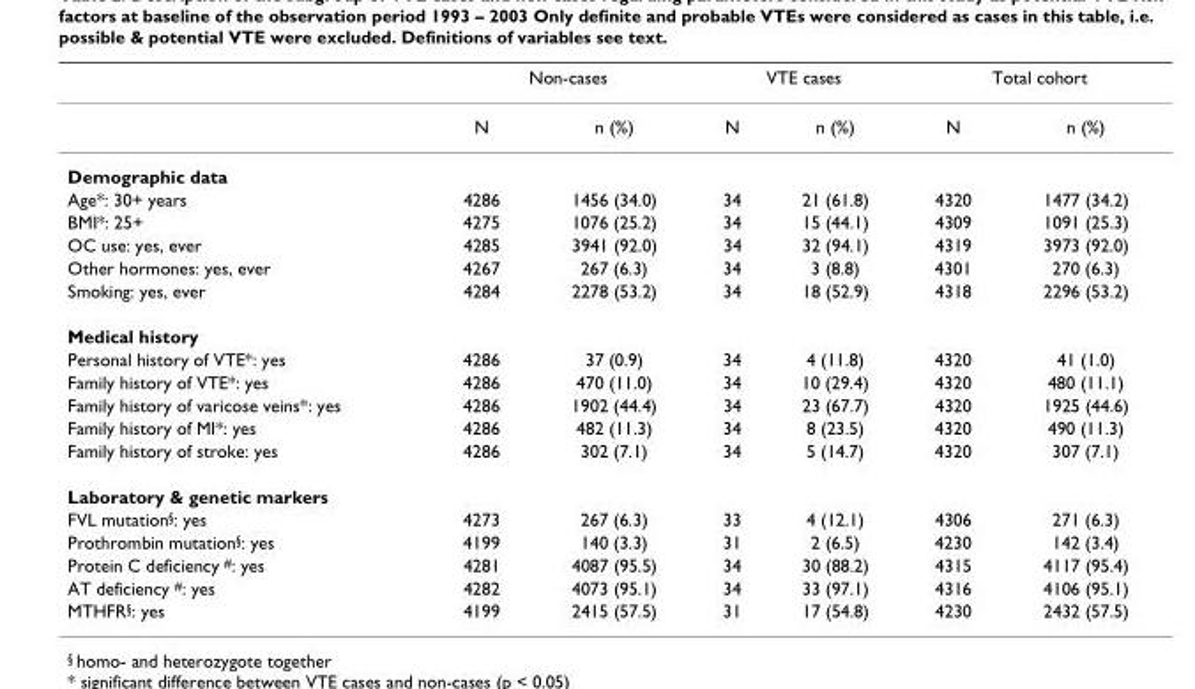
<table><thead><tr><td rowspan="2"></td><td colspan="2">Non-cases</td><td colspan="2">VTE cases</td><td colspan="2">Total cohort</td></tr><tr><td>N</td><td>n (%)</td><td>N</td><td>n (%)</td><td>N</td><td>n (%)</td></tr></thead><tbody><tr><td colspan="7">Demographic data</td></tr><tr><td>Age*: 30+ years</td><td>4286</td><td>1456 (34.0)</td><td>34</td><td>21 (61.8)</td><td>4320</td><td>1477 (34.2)</td></tr><tr><td>BMI*: 25+</td><td>4275</td><td>1076 (25.2)</td><td>34</td><td>15 (44.1)</td><td>4309</td><td>1091 (25.3)</td></tr><tr><td>OC use: yes, ever</td><td>4285</td><td>3941 (92.0)</td><td>34</td><td>32 (94.1)</td><td>4319</td><td>3973 (92.0)</td></tr><tr><td>Other hormones: yes, ever</td><td>4267</td><td>267 (6.3)</td><td>34</td><td>3 (8.8)</td><td>4301</td><td>270 (6.3)</td></tr><tr><td>Smoking: yes, ever</td><td>4284</td><td>2278 (53.2)</td><td>34</td><td>18 (52.9)</td><td>4318</td><td>2296 (53.2)</td></tr><tr><td colspan="7">Medical history</td></tr><tr><td>Personal history of VTE*: yes</td><td>4286</td><td>37 (0.9)</td><td>34</td><td>4 (11.8)</td><td>4320</td><td>41 (1.0)</td></tr><tr><td>Family history of VTE*: yes</td><td>4286</td><td>470 (11.0)</td><td>34</td><td>10 (29.4)</td><td>4320</td><td>480 (11.1)</td></tr><tr><td>Family history of varicose veins*: yes</td><td>4286</td><td>1902 (44.4)</td><td>34</td><td>23 (67.7)</td><td>4320</td><td>1925 (44.6)</td></tr><tr><td>Family history of MI*: yes</td><td>4286</td><td>482 (11.3)</td><td>34</td><td>8 (23.5)</td><td>4320</td><td>490 (11.3)</td></tr><tr><td>Family history of stroke: yes</td><td>4286</td><td>302 (7.1)</td><td>34</td><td>5 (14.7)</td><td>4320</td><td>307 (7.1)</td></tr><tr><td colspan="7">Laboratory &amp; genetic markers</td></tr><tr><td>FVL mutation<sup>§</sup>: yes</td><td>4273</td><td>267 (6.3)</td><td>33</td><td>4 (12.1)</td><td>4306</td><td>271 (6.3)</td></tr><tr><td>Prothrombin mutation<sup>§</sup>: yes</td><td>4199</td><td>140 (3.3)</td><td>31</td><td>2 (6.5)</td><td>4230</td><td>142 (3.4)</td></tr><tr><td>Protein C deficiency <sup>#</sup>: yes</td><td>4281</td><td>4087 (95.5)</td><td>34</td><td>30 (88.2)</td><td>4315</td><td>4117 (95.4)</td></tr><tr><td>AT deficiency <sup>#</sup>: yes</td><td>4282</td><td>4073 (95.1)</td><td>34</td><td>33 (97.1)</td><td>4316</td><td>4106 (95.1)</td></tr><tr><td>MTHFR<sup>§</sup>: yes</td><td>4199</td><td>2415 (57.5)</td><td>31</td><td>17 (54.8)</td><td>4230</td><td>2432 (57.5)</td></tr></tbody></table>